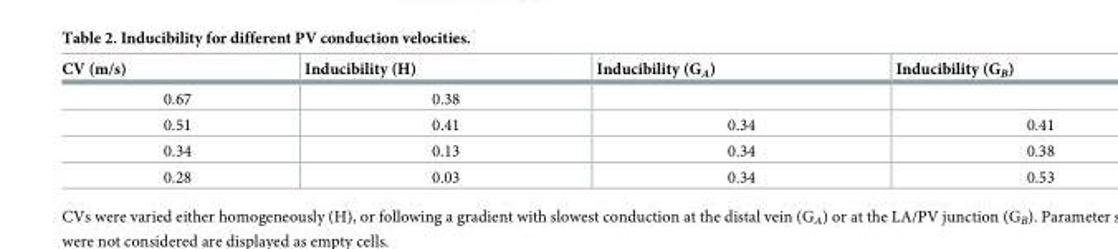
<table><thead><tr><td>CV (m/s)</td><td>Inducibility (H)</td><td>Inducibility (G<sub>A</sub>)</td><td>Inducibility (G<sub>B</sub>)</td></tr></thead><tbody><tr><td>0.67</td><td>0.38</td><td></td><td></td></tr><tr><td>0.51</td><td>0.41</td><td>0.34</td><td>0.41</td></tr><tr><td>0.34</td><td>0.13</td><td>0.34</td><td>0.38</td></tr><tr><td>0.28</td><td>0.03</td><td>0.34</td><td>0.53</td></tr></tbody></table>